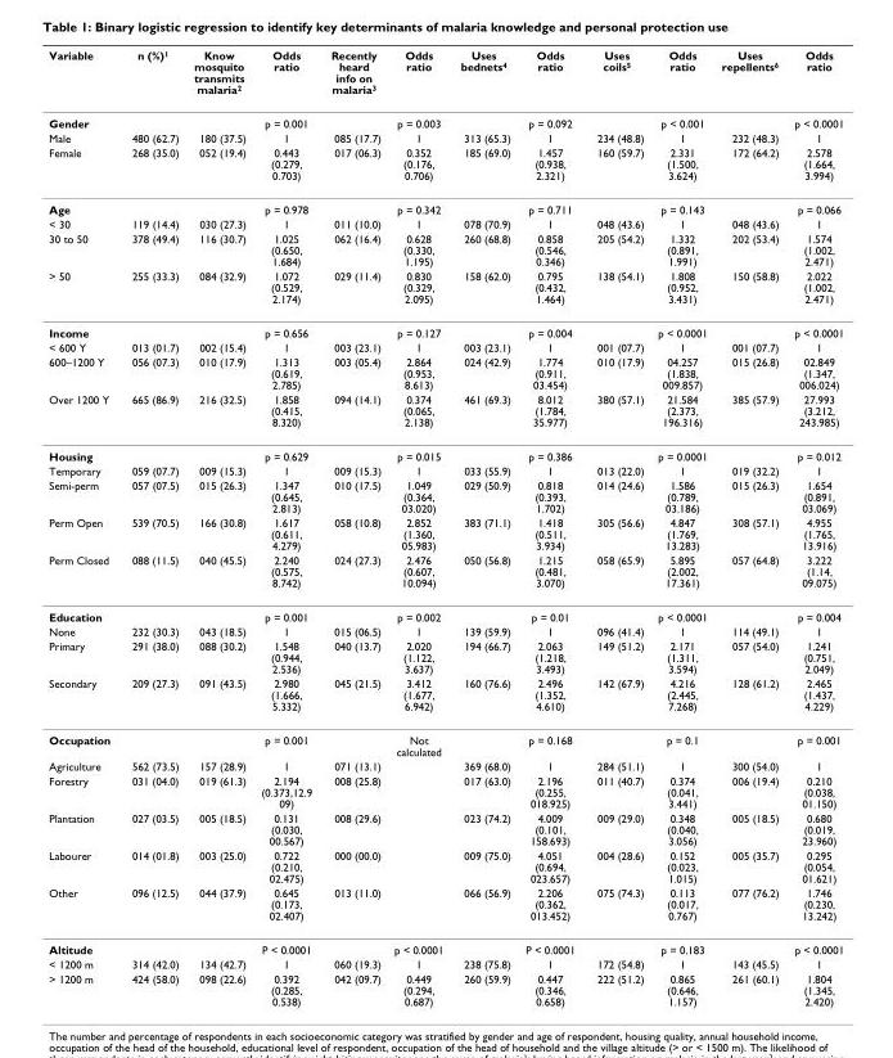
<table><thead><tr><td>Variable</td><td>n (%)<sup>1</sup></td><td>Know mosquito transmits malaria<sup>2</sup></td><td>Odds ratio</td><td>Recently heard info on malaria<sup>3</sup></td><td>Odds ratio</td><td>Uses bednets<sup>4</sup></td><td>Odds ratio</td><td>Uses coils<sup>5</sup></td><td>Odds ratio</td><td>Uses repellents<sup>6</sup></td><td>Odds ratio</td></tr></thead><tbody><tr><td>Gender</td><td></td><td></td><td>p = 0.001</td><td></td><td>p = 0.003</td><td></td><td>p = 0.092</td><td></td><td>p &lt; 0.001</td><td></td><td>p &lt; 0.0001</td></tr><tr><td>Male</td><td>480 (62.7)</td><td>180 (37.5)</td><td>1</td><td>085 (17.7)</td><td>1</td><td>313 (65.3)</td><td>1</td><td>234 (48.8)</td><td>1</td><td>232 (48.3)</td><td>1</td></tr><tr><td>Female</td><td>268 (35.0)</td><td>052 (19.4)</td><td>0.443 (0.279, 0.703)</td><td>017 (06.3)</td><td>0.352 (0.176, 0.706)</td><td>185 (69.0)</td><td>1.457 (0.938, 2.321)</td><td>160 (59.7)</td><td>2.331 (1.500, 3.624)</td><td>172 (64.2)</td><td>2.578 (1.664, 3.994)</td></tr><tr><td>Age</td><td></td><td></td><td>p = 0.978</td><td></td><td>p = 0.342</td><td></td><td>p = 0.711</td><td></td><td>p = 0.143</td><td></td><td>p = 0.066</td></tr><tr><td>&lt; 30</td><td>119 (14.4)</td><td>030 (27.3)</td><td>1</td><td>011 (10.0)</td><td>1</td><td>078 (70.9)</td><td>1</td><td>048 (43.6)</td><td>1</td><td>048 (43.6)</td><td>1</td></tr><tr><td>30 to 50</td><td>378 (49.4)</td><td>116 (30.7)</td><td>1.025 (0.650, 1.684)</td><td>062 (16.4)</td><td>0.628 (0.330, 1.195)</td><td>260 (68.8)</td><td>0.858 (0.546, 0.346)</td><td>205 (54.2)</td><td>1.332 (0.891, 1.991)</td><td>202 (53.4)</td><td>1.574 (1.002, 2.471)</td></tr><tr><td>&gt; 50</td><td>255 (33.3)</td><td>084 (32.9)</td><td>1.072 (0.529, 2.174)</td><td>029 (11.4)</td><td>0.830 (0.329, 2.095)</td><td>158 (62.0)</td><td>0.795 (0.432, 1.464)</td><td>138 (54.1)</td><td>1.808 (0.952, 3.431)</td><td>150 (58.8)</td><td>2.022 (1.002, 2.471)</td></tr><tr><td>Income</td><td></td><td></td><td>p = 0.656</td><td></td><td>p = 0.127</td><td></td><td>p = 0.004</td><td></td><td>p &lt; 0.0001</td><td></td><td>p &lt; 0.0001</td></tr><tr><td>&lt; 600 Y</td><td>013 (01.7)</td><td>002 (15.4)</td><td>1</td><td>003 (23.1)</td><td>1</td><td>003 (23.1)</td><td>1</td><td>001 (07.7)</td><td>1</td><td>001 (07.7)</td><td>1</td></tr><tr><td>600–1200 Y</td><td>056 (07.3)</td><td>010 (17.9)</td><td>1.313 (0.619, 2.785)</td><td>003 (05.4)</td><td>2.864 (0.953, 8.613)</td><td>024 (42.9)</td><td>1.774 (0.911, 03.454)</td><td>010 (17.9)</td><td>04.257 (1.838, 009.857)</td><td>015 (26.8)</td><td>02.849 (1.347, 006.024)</td></tr><tr><td>Over 1200 Y</td><td>665 (86.9)</td><td>216 (32.5)</td><td>1.858 (0.415, 8.320)</td><td>094 (14.1)</td><td>0.374 (0.065, 2.138)</td><td>461 (69.3)</td><td>8.012 (1.784, 35.977)</td><td>380 (57.1)</td><td>21.584 (2.373, 196.316)</td><td>385 (57.9)</td><td>27.993 (3.212, 243.985)</td></tr><tr><td>Housing</td><td></td><td></td><td>p = 0.629</td><td></td><td>p = 0.015</td><td></td><td>p = 0.386</td><td></td><td>p = 0.0001</td><td></td><td>p = 0.012</td></tr><tr><td>Temporary</td><td>059 (07.7)</td><td>009 (15.3)</td><td>1</td><td>009 (15.3)</td><td>1</td><td>033 (55.9)</td><td>1</td><td>013 (22.0)</td><td>1</td><td>019 (32.2)</td><td>1</td></tr><tr><td>Semi-perm</td><td>057 (07.5)</td><td>015 (26.3)</td><td>1.347 (0.645, 2.813)</td><td>010 (17.5)</td><td>1.049 (0.364, 03.020)</td><td>029 (50.9)</td><td>0.818 (0.393, 1.702)</td><td>014 (24.6)</td><td>1.586 (0.789, 03.186)</td><td>015 (26.3)</td><td>1.654 (0.891, 03.069)</td></tr><tr><td>Perm Open</td><td>539 (70.5)</td><td>166 (30.8)</td><td>1.617 (0.611, 4.279)</td><td>058 (10.8)</td><td>2.852 (1.360, 05.983)</td><td>383 (71.1)</td><td>1.418 (0.511, 3.934)</td><td>305 (56.6)</td><td>4.847 (1.769, 13.283)</td><td>308 (57.1)</td><td>4.955 (1.765, 13.916)</td></tr><tr><td>Perm Closed</td><td>088 (11.5)</td><td>040 (45.5)</td><td>2.240 (0.575, 8.742)</td><td>024 (27.3)</td><td>2.476 (0.607, 10.094)</td><td>050 (56.8)</td><td>1.215 (0.481, 3.070)</td><td>058 (65.9)</td><td>5.895 (2.002, 17.361)</td><td>057 (64.8)</td><td>3.222 (1.14, 09.075)</td></tr><tr><td>Education</td><td></td><td></td><td>p = 0.001</td><td></td><td>p = 0.002</td><td></td><td>p = 0.01</td><td></td><td>p &lt; 0.0001</td><td></td><td>p = 0.004</td></tr><tr><td>None</td><td>232 (30.3)</td><td>043 (18.5)</td><td>1</td><td>015 (06.5)</td><td>1</td><td>139 (59.9)</td><td>1</td><td>096 (41.4)</td><td>1</td><td>114 (49.1)</td><td>1</td></tr><tr><td>Primary</td><td>291 (38.0)</td><td>088 (30.2)</td><td>1.548 (0.944, 2.536)</td><td>040 (13.7)</td><td>2.020 (1.122, 3.637)</td><td>194 (66.7)</td><td>2.063 (1.218, 3.493)</td><td>149 (51.2)</td><td>2.171 (1.311, 3.594)</td><td>057 (54.0)</td><td>1.241 (0.751, 2.049)</td></tr><tr><td>Secondary</td><td>209 (27.3)</td><td>091 (43.5)</td><td>2.980 (1.666, 5.332)</td><td>045 (21.5)</td><td>3.412 (1.677, 6.942)</td><td>160 (76.6)</td><td>2.496 (1.352, 4.610)</td><td>142 (67.9)</td><td>4.216 (2.445, 7.268)</td><td>128 (61.2)</td><td>2.465 (1.437, 4.229)</td></tr><tr><td>Occupation</td><td></td><td></td><td>p = 0.001</td><td></td><td>Not calculated</td><td></td><td>p = 0.168</td><td></td><td>p = 0.1</td><td></td><td>p = 0.001</td></tr><tr><td>Agriculture</td><td>562 (73.5)</td><td>157 (28.9)</td><td>1</td><td>071 (13.1)</td><td></td><td>369 (68.0)</td><td>1</td><td>284 (51.1)</td><td>1</td><td>300 (54.0)</td><td>1</td></tr><tr><td>Forestry</td><td>031 (04.0)</td><td>019 (61.3)</td><td>2.194 (0.373,12.9 09)</td><td>008 (25.8)</td><td></td><td>017 (63.0)</td><td>2.196 (0.255, 018.925)</td><td>011 (40.7)</td><td>0.374 (0.041, 3.441)</td><td>006 (19.4)</td><td>0.210 (0.038, 01.150)</td></tr><tr><td>Plantation</td><td>027 (03.5)</td><td>005 (18.5)</td><td>0.131 (0.030, 00.567)</td><td>008 (29.6)</td><td></td><td>023 (74.2)</td><td>4.009 (0.101, 158.693)</td><td>009 (29.0)</td><td>0.348 (0.040, 3.056)</td><td>005 (18.5)</td><td>0.680 (0.019, 23.960)</td></tr><tr><td>Labourer</td><td>014 (01.8)</td><td>003 (25.0)</td><td>0.722 (0.210, 02.475)</td><td>000 (00.0)</td><td></td><td>009 (75.0)</td><td>4.051 (0.694, 023.657)</td><td>004 (28.6)</td><td>0.152 (0.023, 1.015)</td><td>005 (35.7)</td><td>0.295 (0.054, 01.621)</td></tr><tr><td>Other</td><td>096 (12.5)</td><td>044 (37.9)</td><td>0.645 (0.173, 02.407)</td><td>013 (11.0)</td><td></td><td>066 (56.9)</td><td>2.206 (0.362, 013.452)</td><td>075 (74.3)</td><td>0.113 (0.017, 0.767)</td><td>077 (76.2)</td><td>1.746 (0.230, 13.242)</td></tr><tr><td>Altitude</td><td></td><td></td><td>P &lt; 0.0001</td><td></td><td>p &lt; 0.0001</td><td></td><td>P &lt; 0.0001</td><td></td><td>p = 0.183</td><td></td><td>p &lt; 0.0001</td></tr><tr><td>&lt; 1200 m</td><td>314 (42.0)</td><td>134 (42.7)</td><td>1</td><td>060 (19.3)</td><td>1</td><td>238 (75.8)</td><td>1</td><td>172 (54.8)</td><td>1</td><td>143 (45.5)</td><td>1</td></tr><tr><td>&gt; 1200 m</td><td>424 (58.0)</td><td>098 (22.6)</td><td>0.392 (0.285, 0.538)</td><td>042 (09.7)</td><td>0.449 (0.294, 0.687)</td><td>260 (59.9)</td><td>0.447 (0.346, 0.658)</td><td>222 (51.2)</td><td>0.865 (0.646, 1.157)</td><td>261 (60.1)</td><td>1.804 (1.345, 2.420)</td></tr></tbody></table>